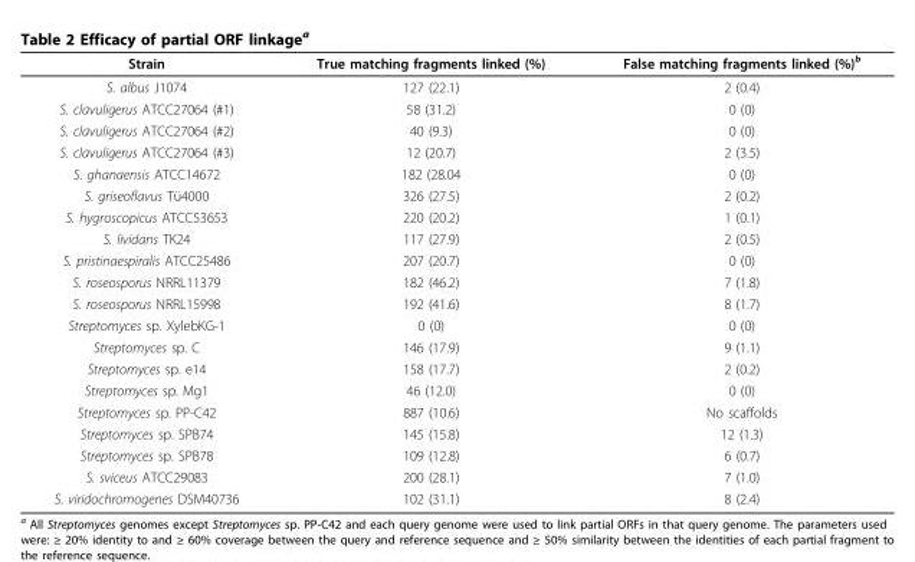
<table><thead><tr><td>Strain</td><td>True matching fragments linked (%)</td><td>False matching fragments linked (%)<sup>b</sup></td></tr></thead><tbody><tr><td>S. albus J1074</td><td>127 (22.1)</td><td>2 (0.4)</td></tr><tr><td>S. clavuligerus ATCC27064 (#1)</td><td>58 (31.2)</td><td>0 (0)</td></tr><tr><td>S. clavuligerus ATCC27064 (#2)</td><td>40 (9.3)</td><td>0 (0)</td></tr><tr><td>S. clavuligerus ATCC27064 (#3)</td><td>12 (20.7)</td><td>2 (3.5)</td></tr><tr><td>S. ghanaensis ATCC14672</td><td>182 (28.04</td><td>0 (0)</td></tr><tr><td>S. griseoflavus Tü4000</td><td>326 (27.5)</td><td>2 (0.2)</td></tr><tr><td>S. hygroscopicus ATCC53653</td><td>220 (20.2)</td><td>1 (0.1)</td></tr><tr><td>S. lividans TK24</td><td>117 (27.9)</td><td>2 (0.5)</td></tr><tr><td>S. pristinaespiralis ATCC25486</td><td>207 (20.7)</td><td>0 (0)</td></tr><tr><td>S. roseosporus NRRL11379</td><td>182 (46.2)</td><td>7 (1.8)</td></tr><tr><td>S. roseosporus NRRL15998</td><td>192 (41.6)</td><td>8 (1.7)</td></tr><tr><td>Streptomyces sp. XylebKG-1</td><td>0 (0)</td><td>0 (0)</td></tr><tr><td>Streptomyces sp. C</td><td>146 (17.9)</td><td>9 (1.1)</td></tr><tr><td>Streptomyces sp. e14</td><td>158 (17.7)</td><td>2 (0.2)</td></tr><tr><td>Streptomyces sp. Mg1</td><td>46 (12.0)</td><td>0 (0)</td></tr><tr><td>Streptomyces sp. PP-C42</td><td>887 (10.6)</td><td>No scaffolds</td></tr><tr><td>Streptomyces sp. SPB74</td><td>145 (15.8)</td><td>12 (1.3)</td></tr><tr><td>Streptomyces sp. SPB78</td><td>109 (12.8)</td><td>6 (0.7)</td></tr><tr><td>S. sviceus ATCC29083</td><td>200 (28.1)</td><td>7 (1.0)</td></tr><tr><td>S. viridochromogenes DSM40736</td><td>102 (31.1)</td><td>8 (2.4)</td></tr></tbody></table>